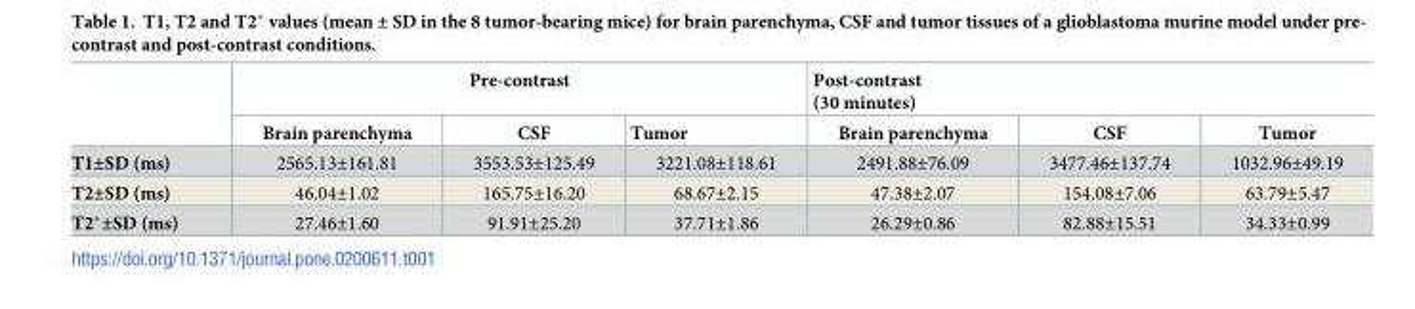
<table><thead><tr><td rowspan="2"></td><td colspan="3">Pre-contrast</td><td colspan="3">Post-contrast (30 minutes)</td></tr><tr><td>Brain parenchyma</td><td>CSF</td><td>Tumor</td><td>Brain parenchyma</td><td>CSF</td><td>Tumor</td></tr></thead><tbody><tr><td>T1±SD (ms)</td><td>2565.13±161.81</td><td>3553.53±125.49</td><td>3221.08±118.61</td><td>2491.88±76.09</td><td>3477.46±137.74</td><td>1032.96±49.19</td></tr><tr><td>T2±SD (ms)</td><td>46.04±1.02</td><td>165.75±16.20</td><td>68.67±2.15</td><td>47.38±2.07</td><td>154.08±7.06</td><td>63.79±5.47</td></tr><tr><td>T2*±SD (ms)</td><td>27.46±1.60</td><td>91.91±25.20</td><td>37.71±1.86</td><td>26.29±0.86</td><td>82.88±15.51</td><td>34.33±0.99</td></tr></tbody></table>